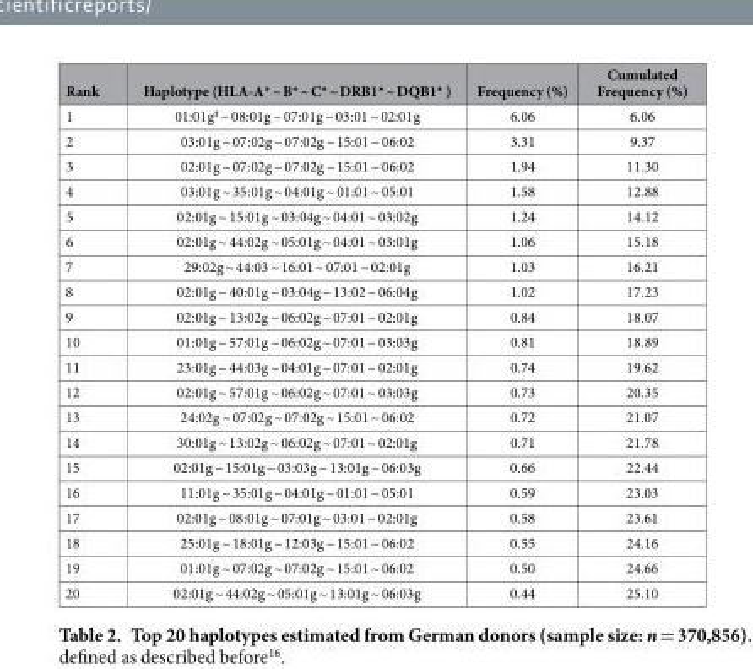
<table><thead><tr><td>Rank</td><td>Haplotype (HLA-A* ~ B* ~ C* ~ DRB1* ~ DQB1* )</td><td>Frequency (%)</td><td>Cumulated Frequency (%)</td></tr></thead><tbody><tr><td>1</td><td>01:01g<sup>‡</sup> ~ 08:01g ~ 07:01g ~ 03:01 ~ 02:01g</td><td>6.06</td><td>6.06</td></tr><tr><td>2</td><td>03:01g ~ 07:02g ~ 07:02g ~ 15:01 ~ 06:02</td><td>3.31</td><td>9.37</td></tr><tr><td>3</td><td>02:01g ~ 07:02g ~ 07:02g ~ 15:01 ~ 06:02</td><td>1.94</td><td>11.30</td></tr><tr><td>4</td><td>03:01g ~ 35:01g ~ 04:01g ~ 01:01 ~ 05:01</td><td>1.58</td><td>12.88</td></tr><tr><td>5</td><td>02:01g ~ 15:01g ~ 03:04g ~ 04:01 ~ 03:02g</td><td>1.24</td><td>14.12</td></tr><tr><td>6</td><td>02:01g ~ 44:02g ~ 05:01g ~ 04:01 ~ 03:01g</td><td>1.06</td><td>15.18</td></tr><tr><td>7</td><td>29:02g ~ 44:03 ~ 16:01 ~ 07:01 ~ 02:01g</td><td>1.03</td><td>16.21</td></tr><tr><td>8</td><td>02:01g ~ 40:01g ~ 03:04g ~ 13:02 ~ 06:04g</td><td>1.02</td><td>17.23</td></tr><tr><td>9</td><td>02:01g ~ 13:02g ~ 06:02g ~ 07:01 ~ 02:01g</td><td>0.84</td><td>18.07</td></tr><tr><td>10</td><td>01:01g ~ 57:01g ~ 06:02g ~ 07:01 ~ 03:03g</td><td>0.81</td><td>18.89</td></tr><tr><td>11</td><td>23:01g ~ 44:03g ~ 04:01g ~ 07:01 ~ 02:01g</td><td>0.74</td><td>19.62</td></tr><tr><td>12</td><td>02:01g ~ 57:01g ~ 06:02g ~ 07:01 ~ 03:03g</td><td>0.73</td><td>20.35</td></tr><tr><td>13</td><td>24:02g ~ 07:02g ~ 07:02g ~ 15:01 ~ 06:02</td><td>0.72</td><td>21.07</td></tr><tr><td>14</td><td>30:01g ~ 13:02g ~ 06:02g ~ 07:01 ~ 02:01g</td><td>0.71</td><td>21.78</td></tr><tr><td>15</td><td>02:01g ~ 15:01g ~ 03:03g ~ 13:01g ~ 06:03g</td><td>0.66</td><td>22.44</td></tr><tr><td>16</td><td>11:01g ~ 35:01g ~ 04:01g ~ 01:01 ~ 05:01</td><td>0.59</td><td>23.03</td></tr><tr><td>17</td><td>02:01g ~ 08:01g ~ 07:01g ~ 03:01 ~ 02:01g</td><td>0.58</td><td>23.61</td></tr><tr><td>18</td><td>25:01g ~ 18:01g ~ 12:03g ~ 15:01 ~ 06:02</td><td>0.55</td><td>24.16</td></tr><tr><td>19</td><td>01:01g ~ 07:02g ~ 07:02g ~ 15:01 ~ 06:02</td><td>0.50</td><td>24.66</td></tr><tr><td>20</td><td>02:01g ~ 44:02g ~ 05:01g ~ 13:01g ~ 06:03g</td><td>0.44</td><td>25.10</td></tr></tbody></table>